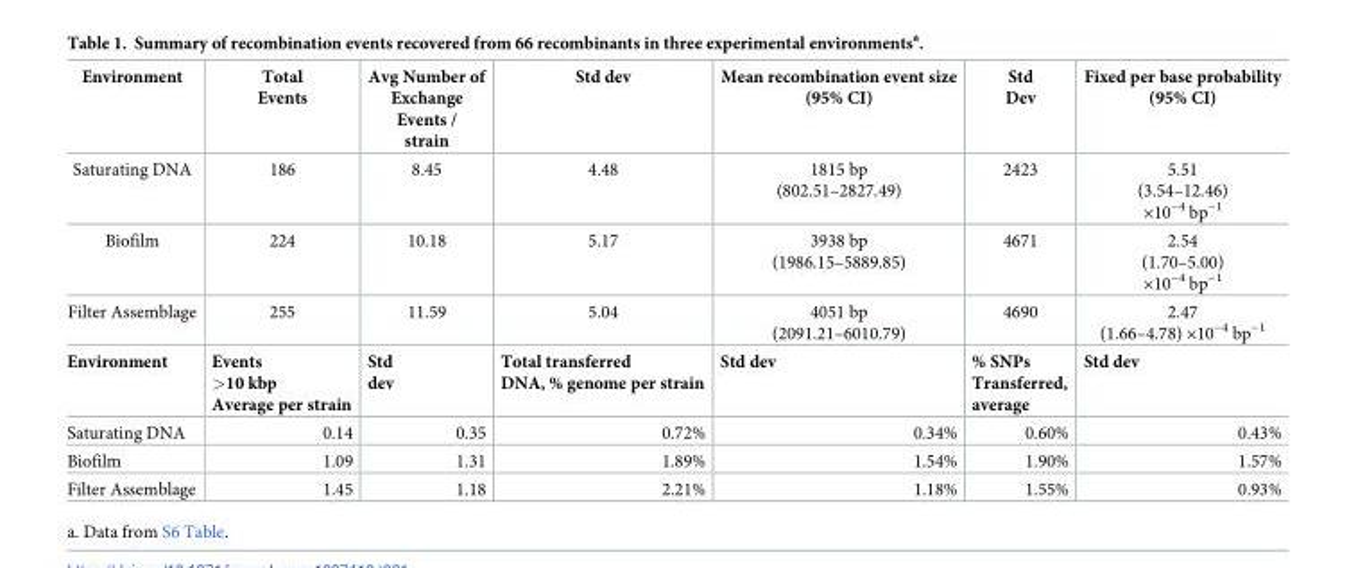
<table><tbody><tr><td>Environment</td><td>Total Events</td><td>Avg Number of Exchange Events / strain</td><td>Std dev</td><td>Mean recombination event size (95% CI)</td><td>Std Dev</td><td>Fixed per base probability (95% CI)</td></tr><tr><td>Saturating DNA</td><td>186</td><td>8.45</td><td>4.48</td><td>1815 bp (802.51–2827.49)</td><td>2423</td><td>5.51 (3.54–12.46) ×10<sup>−4</sup> bp<sup>−1</sup></td></tr><tr><td>Biofilm</td><td>224</td><td>10.18</td><td>5.17</td><td>3938 bp (1986.15–5889.85)</td><td>4671</td><td>2.54 (1.70–5.00) ×10<sup>−4</sup> bp<sup>−1</sup></td></tr><tr><td>Filter Assemblage</td><td>255</td><td>11.59</td><td>5.04</td><td>4051 bp (2091.21–6010.79)</td><td>4690</td><td>2.47 (1.66–4.78) ×10<sup>−4</sup> bp<sup>−1</sup></td></tr><tr><td>Environment</td><td>Events &gt;10 kbp Average per strain</td><td>Std dev</td><td>Total transferred DNA, % genome per strain</td><td>Std dev</td><td>% SNPs Transferred, average</td><td>Std dev</td></tr><tr><td>Saturating DNA</td><td>0.14</td><td>0.35</td><td>0.72%</td><td>0.34%</td><td>0.60%</td><td>0.43%</td></tr><tr><td>Biofilm</td><td>1.09</td><td>1.31</td><td>1.89%</td><td>1.54%</td><td>1.90%</td><td>1.57%</td></tr><tr><td>Filter Assemblage</td><td>1.45</td><td>1.18</td><td>2.21%</td><td>1.18%</td><td>1.55%</td><td>0.93%</td></tr></tbody></table>